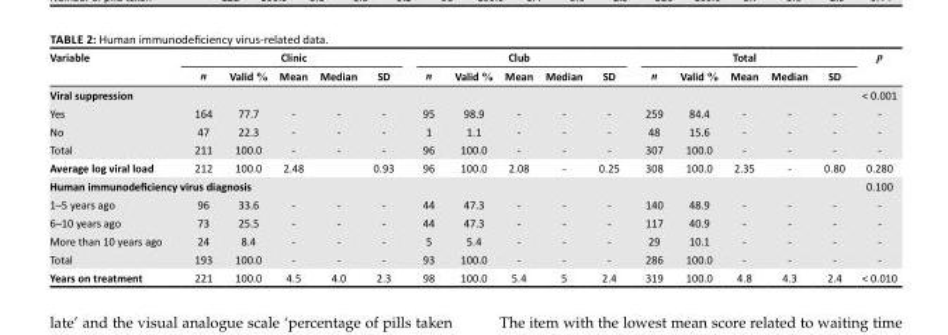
<table><thead><tr><td rowspan="2">Variable</td><td colspan="5">Clinic</td><td colspan="5">Club</td><td colspan="5">Total</td><td rowspan="2">p</td></tr><tr><td>n</td><td>Valid %</td><td>Mean</td><td>Median</td><td>SD</td><td>n</td><td>Valid %</td><td>Mean</td><td>Median</td><td>SD</td><td>n</td><td>Valid %</td><td>Mean</td><td>Median</td><td>SD</td></tr></thead><tbody><tr><td colspan="16">Viral suppression</td><td>&lt; 0.001</td></tr><tr><td>Yes</td><td>164</td><td>77.7</td><td>-</td><td>-</td><td>-</td><td>95</td><td>98.9</td><td>-</td><td>-</td><td>-</td><td>259</td><td>84.4</td><td>-</td><td>-</td><td>-</td><td>-</td></tr><tr><td>No</td><td>47</td><td>22.3</td><td>-</td><td>-</td><td>-</td><td>1</td><td>1.1</td><td>-</td><td>-</td><td>-</td><td>48</td><td>15.6</td><td>-</td><td>-</td><td>-</td><td>-</td></tr><tr><td>Total</td><td>211</td><td>100.0</td><td>-</td><td>-</td><td>-</td><td>96</td><td>100.0</td><td>-</td><td>-</td><td>-</td><td>307</td><td>100.0</td><td>-</td><td>-</td><td>-</td><td>-</td></tr><tr><td>Average log viral load</td><td>212</td><td>100.0</td><td>2.48</td><td></td><td>0.93</td><td>96</td><td>100.0</td><td>2.08</td><td>-</td><td>0.25</td><td>308</td><td>100.0</td><td>2.35</td><td>-</td><td>0.80</td><td>0.280</td></tr><tr><td colspan="16">Human immunodeficiency virus diagnosis</td><td>0.100</td></tr><tr><td>1–5 years ago</td><td>96</td><td>33.6</td><td>-</td><td>-</td><td>-</td><td>44</td><td>47.3</td><td>-</td><td>-</td><td>-</td><td>140</td><td>48.9</td><td>-</td><td>-</td><td>-</td><td>-</td></tr><tr><td>6–10 years ago</td><td>73</td><td>25.5</td><td>-</td><td>-</td><td>-</td><td>44</td><td>47.3</td><td>-</td><td>-</td><td>-</td><td>117</td><td>40.9</td><td>-</td><td>-</td><td>-</td><td>-</td></tr><tr><td>More than 10 years ago</td><td>24</td><td>8.4</td><td>-</td><td>-</td><td>-</td><td>5</td><td>5.4</td><td>-</td><td>-</td><td>-</td><td>29</td><td>10.1</td><td>-</td><td>-</td><td>-</td><td>-</td></tr><tr><td>Total</td><td>193</td><td>100.0</td><td>-</td><td>-</td><td>-</td><td>93</td><td>100.0</td><td>-</td><td>-</td><td>-</td><td>286</td><td>100.0</td><td>-</td><td>-</td><td>-</td><td>-</td></tr><tr><td>Years on treatment</td><td>221</td><td>100.0</td><td>4.5</td><td>4.0</td><td>2.3</td><td>98</td><td>100.0</td><td>5.4</td><td>5</td><td>2.4</td><td>319</td><td>100.0</td><td>4.8</td><td>4.3</td><td>2.4</td><td>&lt; 0.010</td></tr></tbody></table>